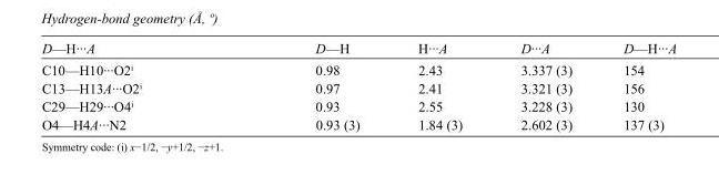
<table><tbody><tr><td>D—H···A</td><td>D—H</td><td>H···A</td><td>D···A</td><td>D—H···A</td></tr><tr><td>C10—H10···O2<sup>i</sup></td><td>0.98</td><td>2.43</td><td>3.337 (3)</td><td>154</td></tr><tr><td>C13—H13A···O2<sup>i</sup></td><td>0.97</td><td>2.41</td><td>3.321 (3)</td><td>156</td></tr><tr><td>C29—H29···O4<sup>i</sup></td><td>0.93</td><td>2.55</td><td>3.228 (3)</td><td>130</td></tr><tr><td>O4—H4A···N2</td><td>0.93 (3)</td><td>1.84 (3)</td><td>2.602 (3)</td><td>137 (3)</td></tr></tbody></table>